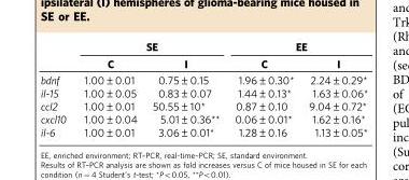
<table><thead><tr><td rowspan="2"></td><td colspan="2">SE</td><td colspan="2">EE</td></tr><tr><td>C</td><td>I</td><td>C</td><td>I</td></tr></thead><tbody><tr><td>bdnf</td><td>1.00±0.01</td><td>0.75±0.15</td><td>1.96±0.30*</td><td>2.24±0.29*</td></tr><tr><td>il-15</td><td>1.00±0.05</td><td>0.83±0.07</td><td>1.44±0.13*</td><td>1.63±0.06*</td></tr><tr><td>ccl2</td><td>1.00±0.01</td><td>50.55±10*</td><td>0.87±0.10</td><td>9.04±0.72*</td></tr><tr><td>cxcl10</td><td>1.00±0.04</td><td>5.01±0.36**</td><td>0.06±0.01*</td><td>1.62±0.16*</td></tr><tr><td>il-6</td><td>1.00±0.01</td><td>3.06±0.01*</td><td>1.28±0.16</td><td>1.13±0.05*</td></tr></tbody></table>